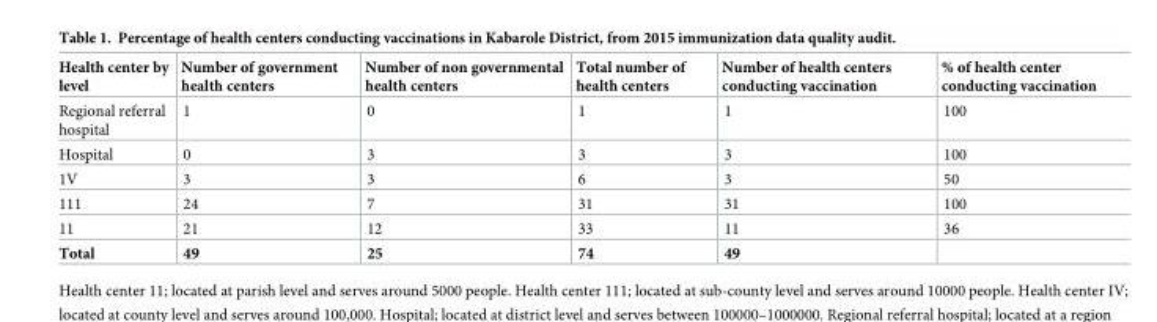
<table><thead><tr><td>Health center by level</td><td>Number of government health centers</td><td>Number of non governmental health centers</td><td>Total number of health centers</td><td>Number of health centers conducting vaccination</td><td>% of health center conducting vaccination</td></tr></thead><tbody><tr><td>Regional referral hospital</td><td>1</td><td>0</td><td>1</td><td>1</td><td>100</td></tr><tr><td>Hospital</td><td>0</td><td>3</td><td>3</td><td>3</td><td>100</td></tr><tr><td>1V</td><td>3</td><td>3</td><td>6</td><td>3</td><td>50</td></tr><tr><td>111</td><td>24</td><td>7</td><td>31</td><td>31</td><td>100</td></tr><tr><td>11</td><td>21</td><td>12</td><td>33</td><td>11</td><td>36</td></tr><tr><td>Total</td><td>49</td><td>25</td><td>74</td><td>49</td><td></td></tr></tbody></table>